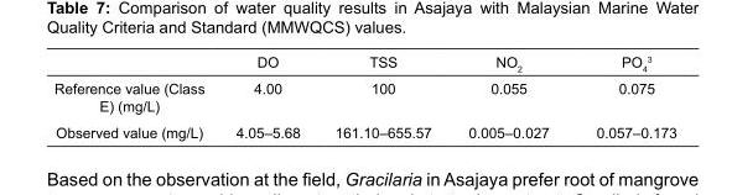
<table><thead><tr><td></td><td>DO</td><td>TSS</td><td>NO<sub>2</sub></td><td>PO<sub>4</sub> <sup>3</sup></td></tr></thead><tbody><tr><td>Reference value (Class E) (mg/L)</td><td>4.00</td><td>100</td><td>0.055</td><td>0.075</td></tr><tr><td>Observed value (mg/L)</td><td>4.05–5.68</td><td>161.10–655.57</td><td>0.005–0.027</td><td>0.057–0.173</td></tr></tbody></table>